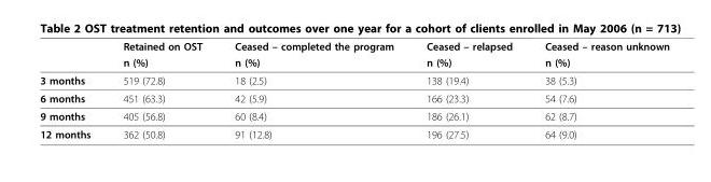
<table><thead><tr><td rowspan="2"></td><td rowspan="2">Retained on OST n (%)</td><td rowspan="2">Ceased – completed the program n (%)</td><td rowspan="2">Ceased – relapsed n (%)</td><td rowspan="2">Ceased – reason unknown n (%)</td></tr><tr></tr></thead><tbody><tr><td>3 months</td><td>519 (72.8)</td><td>18 (2.5)</td><td>138 (19.4)</td><td>38 (5.3)</td></tr><tr><td>6 months</td><td>451 (63.3)</td><td>42 (5.9)</td><td>166 (23.3)</td><td>54 (7.6)</td></tr><tr><td>9 months</td><td>405 (56.8)</td><td>60 (8.4)</td><td>186 (26.1)</td><td>62 (8.7)</td></tr><tr><td>12 months</td><td>362 (50.8)</td><td>91 (12.8)</td><td>196 (27.5)</td><td>64 (9.0)</td></tr></tbody></table>